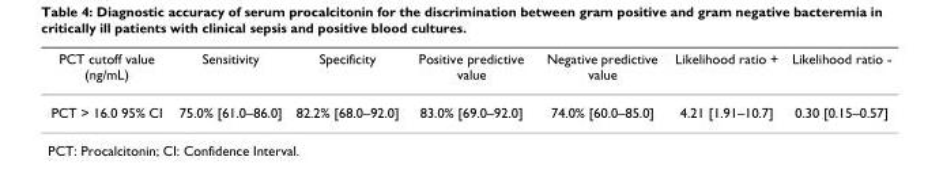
<table><thead><tr><td>PCT cutoff value (ng/mL)</td><td>Sensitivity</td><td>Specificity</td><td>Positive predictive value</td><td>Negative predictive value</td><td>Likelihood ratio +</td><td>Likelihood ratio -</td></tr></thead><tbody><tr><td>PCT &gt; 16.0 95% CI</td><td>75.0% [61.0–86.0]</td><td>82.2% [68.0–92.0]</td><td>83.0% [69.0–92.0]</td><td>74.0% [60.0–85.0]</td><td>4.21 [1.91–10.7]</td><td>0.30 [0.15–0.57]</td></tr></tbody></table>